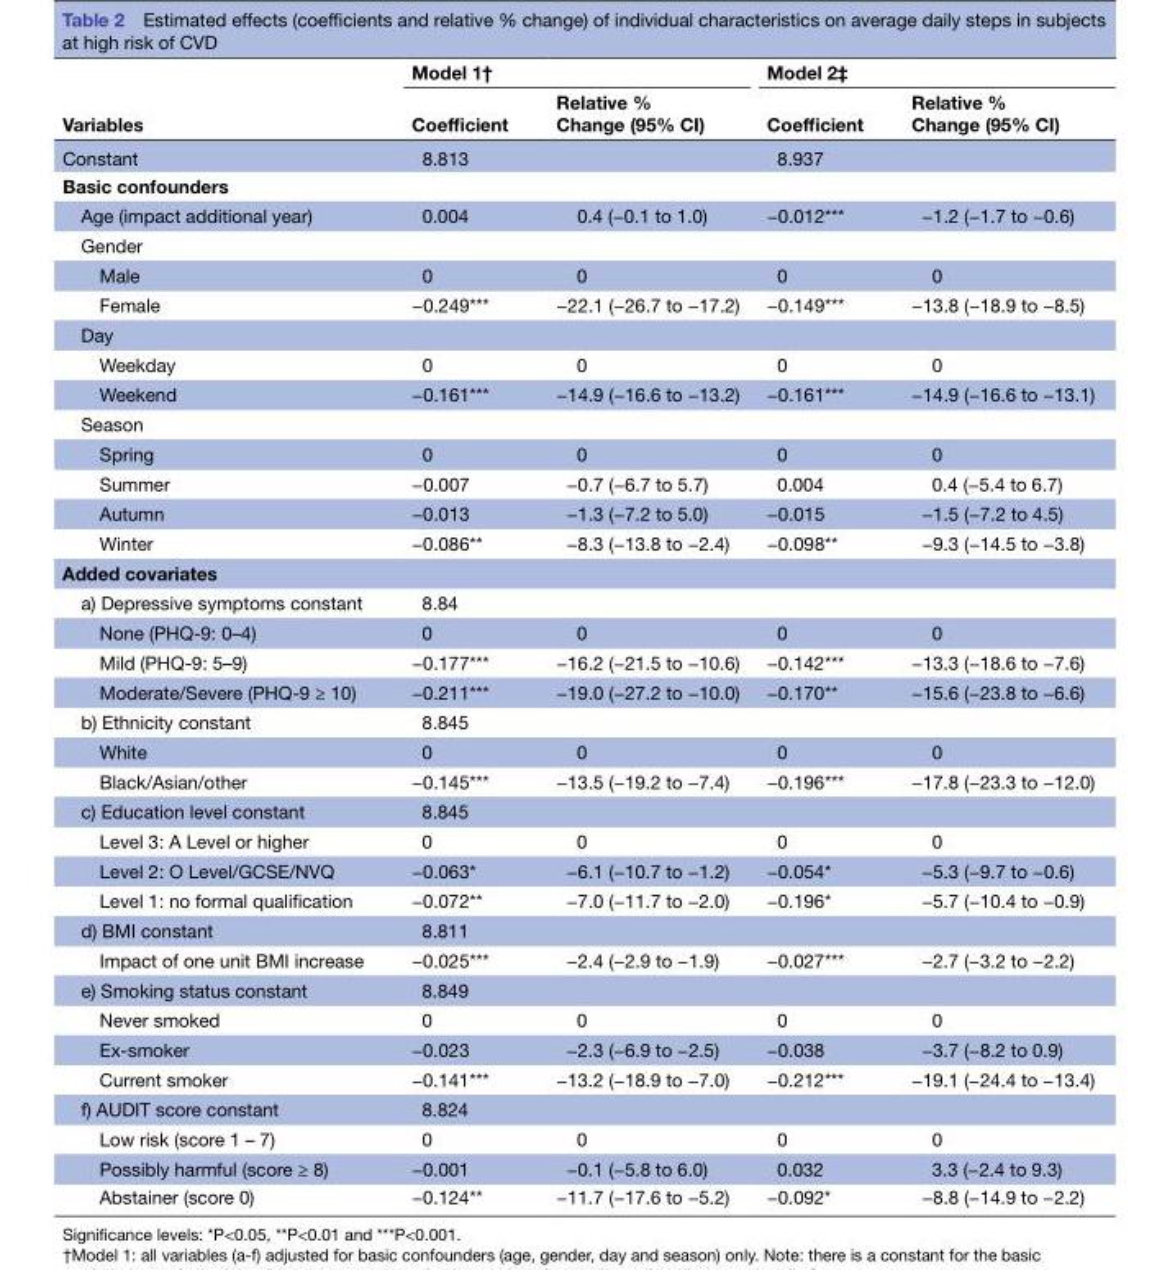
<table><thead><tr><td rowspan="2">Variables</td><td colspan="2">Model 1†</td><td colspan="2">Model 2‡</td></tr><tr><td>Coefficient</td><td>Relative % Change (95% CI)</td><td>Coefficient</td><td>Relative % Change (95% CI)</td></tr></thead><tbody><tr><td>Constant</td><td>8.813</td><td></td><td>8.937</td><td></td></tr><tr><td colspan="5">Basic confounders</td></tr><tr><td>Age (impact additional year)</td><td>0.004</td><td>0.4 (−0.1 to 1.0)</td><td>−0.012***</td><td>−1.2 (−1.7 to −0.6)</td></tr><tr><td colspan="5">Gender</td></tr><tr><td>Male</td><td>0</td><td>0</td><td>0</td><td>0</td></tr><tr><td>Female</td><td>−0.249***</td><td>−22.1 (−26.7 to −17.2)</td><td>−0.149***</td><td>−13.8 (−18.9 to −8.5)</td></tr><tr><td colspan="5">Day</td></tr><tr><td>Weekday</td><td>0</td><td>0</td><td>0</td><td>0</td></tr><tr><td>Weekend</td><td>−0.161***</td><td>−14.9 (−16.6 to −13.2)</td><td>−0.161***</td><td>−14.9 (−16.6 to −13.1)</td></tr><tr><td colspan="5">Season</td></tr><tr><td>Spring</td><td>0</td><td>0</td><td>0</td><td>0</td></tr><tr><td>Summer</td><td>−0.007</td><td>−0.7 (−6.7 to 5.7)</td><td>0.004</td><td>0.4 (−5.4 to 6.7)</td></tr><tr><td>Autumn</td><td>−0.013</td><td>−1.3 (−7.2 to 5.0)</td><td>−0.015</td><td>−1.5 (−7.2 to 4.5)</td></tr><tr><td>Winter</td><td>−0.086**</td><td>−8.3 (−13.8 to −2.4)</td><td>−0.098**</td><td>−9.3 (−14.5 to −3.8)</td></tr><tr><td colspan="5">Added covariates</td></tr><tr><td>a) Depressive symptoms constant</td><td>8.84</td><td></td><td></td><td></td></tr><tr><td>None (PHQ-9: 0–4)</td><td>0</td><td>0</td><td>0</td><td>0</td></tr><tr><td>Mild (PHQ-9: 5–9)</td><td>−0.177***</td><td>−16.2 (−21.5 to −10.6)</td><td>−0.142***</td><td>−13.3 (−18.6 to −7.6)</td></tr><tr><td>Moderate/Severe (PHQ-9 ≥ 10)</td><td>−0.211***</td><td>−19.0 (−27.2 to −10.0)</td><td>−0.170**</td><td>−15.6 (−23.8 to −6.6)</td></tr><tr><td>b) Ethnicity constant</td><td>8.845</td><td></td><td></td><td></td></tr><tr><td>White</td><td>0</td><td>0</td><td>0</td><td>0</td></tr><tr><td>Black/Asian/other</td><td>−0.145***</td><td>−13.5 (−19.2 to −7.4)</td><td>−0.196***</td><td>−17.8 (−23.3 to −12.0)</td></tr><tr><td>c) Education level constant</td><td>8.845</td><td></td><td></td><td></td></tr><tr><td>Level 3: A Level or higher</td><td>0</td><td>0</td><td>0</td><td>0</td></tr><tr><td>Level 2: O Level/GCSE/NVQ</td><td>−0.063*</td><td>−6.1 (−10.7 to −1.2)</td><td>−0.054*</td><td>−5.3 (−9.7 to −0.6)</td></tr><tr><td>Level 1: no formal qualification</td><td>−0.072**</td><td>−7.0 (−11.7 to −2.0)</td><td>−0.196*</td><td>−5.7 (−10.4 to −0.9)</td></tr><tr><td>d) BMI constant</td><td>8.811</td><td></td><td></td><td></td></tr><tr><td>Impact of one unit BMI increase</td><td>−0.025***</td><td>−2.4 (−2.9 to −1.9)</td><td>−0.027***</td><td>−2.7 (−3.2 to −2.2)</td></tr><tr><td>e) Smoking status constant</td><td>8.849</td><td></td><td></td><td></td></tr><tr><td>Never smoked</td><td>0</td><td>0</td><td>0</td><td>0</td></tr><tr><td>Ex-smoker</td><td>−0.023</td><td>−2.3 (−6.9 to −2.5)</td><td>−0.038</td><td>−3.7 (−8.2 to 0.9)</td></tr><tr><td>Current smoker</td><td>−0.141***</td><td>−13.2 (−18.9 to −7.0)</td><td>−0.212***</td><td>−19.1 (−24.4 to −13.4)</td></tr><tr><td>f) AUDIT score constant</td><td>8.824</td><td></td><td></td><td></td></tr><tr><td>Low risk (score 1 – 7)</td><td>0</td><td>0</td><td>0</td><td>0</td></tr><tr><td>Possibly harmful (score ≥ 8)</td><td>−0.001</td><td>−0.1 (−5.8 to 6.0)</td><td>0.032</td><td>3.3 (−2.4 to 9.3)</td></tr><tr><td>Abstainer (score 0)</td><td>−0.124**</td><td>−11.7 (−17.6 to −5.2)</td><td>−0.092*</td><td>−8.8 (−14.9 to −2.2)</td></tr></tbody></table>